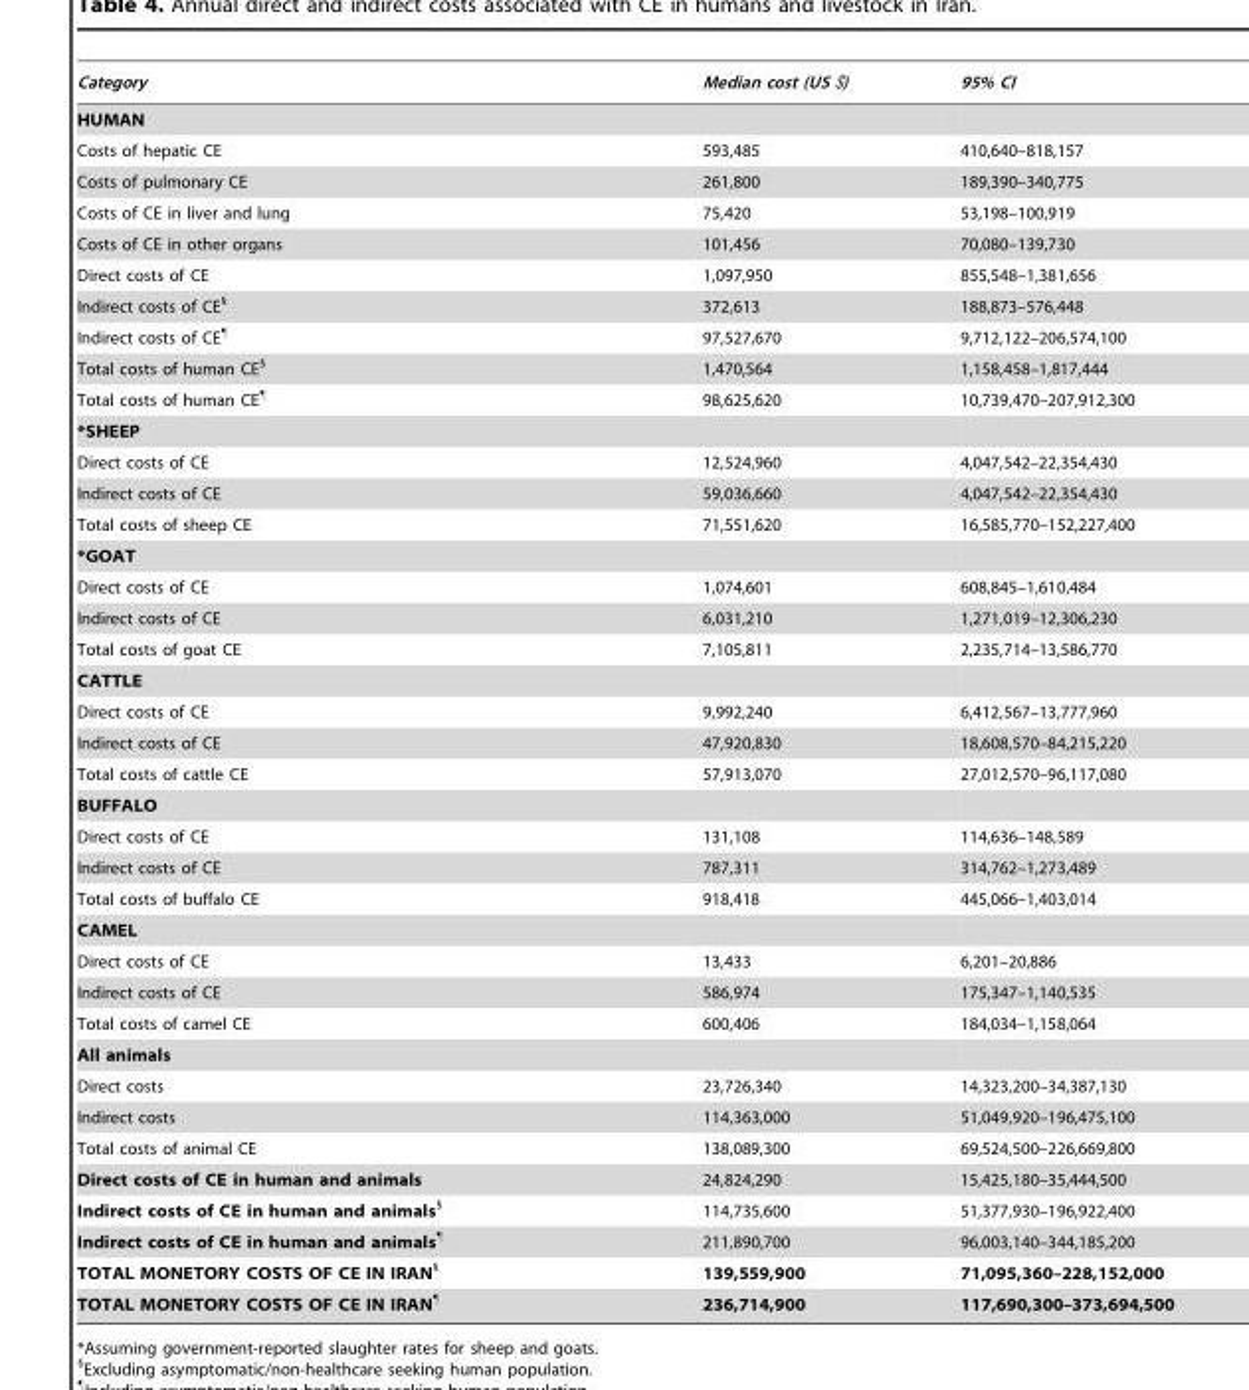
<table><thead><tr><td>Category</td><td>Median cost (US $)</td><td>95% CI</td></tr></thead><tbody><tr><td colspan="3">HUMAN</td></tr><tr><td>Costs of hepatic CE</td><td>593,485</td><td>410,640–818,157</td></tr><tr><td>Costs of pulmonary CE</td><td>261,800</td><td>189,390–340,775</td></tr><tr><td>Costs of CE in liver and lung</td><td>75,420</td><td>53,198–100,919</td></tr><tr><td>Costs of CE in other organs</td><td>101,456</td><td>70,080–139,730</td></tr><tr><td>Direct costs of CE</td><td>1,097,950</td><td>855,548–1,381,656</td></tr><tr><td>Indirect costs of CE§</td><td>372,613</td><td>188,873–576,448</td></tr><tr><td>Indirect costs of CE¶</td><td>97,527,670</td><td>9,712,122–206,574,100</td></tr><tr><td>Total costs of human CE§</td><td>1,470,564</td><td>1,158,458–1,817,444</td></tr><tr><td>Total costs of human CE¶</td><td>98,625,620</td><td>10,739,470–207,912,300</td></tr><tr><td colspan="3">*SHEEP</td></tr><tr><td>Direct costs of CE</td><td>12,524,960</td><td>4,047,542–22,354,430</td></tr><tr><td>Indirect costs of CE</td><td>59,036,660</td><td>4,047,542–22,354,430</td></tr><tr><td>Total costs of sheep CE</td><td>71,551,620</td><td>16,585,770–152,227,400</td></tr><tr><td colspan="3">*GOAT</td></tr><tr><td>Direct costs of CE</td><td>1,074,601</td><td>608,845–1,610,484</td></tr><tr><td>Indirect costs of CE</td><td>6,031,210</td><td>1,271,019–12,306,230</td></tr><tr><td>Total costs of goat CE</td><td>7,105,811</td><td>2,235,714–13,586,770</td></tr><tr><td colspan="3">CATTLE</td></tr><tr><td>Direct costs of CE</td><td>9,992,240</td><td>6,412,567–13,777,960</td></tr><tr><td>Indirect costs of CE</td><td>47,920,830</td><td>18,608,570–84,215,220</td></tr><tr><td>Total costs of cattle CE</td><td>57,913,070</td><td>27,012,570–96,117,080</td></tr><tr><td colspan="3">BUFFALO</td></tr><tr><td>Direct costs of CE</td><td>131,108</td><td>114,636–148,589</td></tr><tr><td>Indirect costs of CE</td><td>787,311</td><td>314,762–1,273,489</td></tr><tr><td>Total costs of buffalo CE</td><td>918,418</td><td>445,066–1,403,014</td></tr><tr><td colspan="3">CAMEL</td></tr><tr><td>Direct costs of CE</td><td>13,433</td><td>6,201–20,886</td></tr><tr><td>Indirect costs of CE</td><td>586,974</td><td>175,347–1,140,535</td></tr><tr><td>Total costs of camel CE</td><td>600,406</td><td>184,034–1,158,064</td></tr><tr><td colspan="3">All animals</td></tr><tr><td>Direct costs</td><td>23,726,340</td><td>14,323,200–34,387,130</td></tr><tr><td>Indirect costs</td><td>114,363,000</td><td>51,049,920–196,475,100</td></tr><tr><td>Total costs of animal CE</td><td>138,089,300</td><td>69,524,500–226,669,800</td></tr><tr><td>Direct costs of CE in human and animals</td><td>24,824,290</td><td>15,425,180–35,444,500</td></tr><tr><td>Indirect costs of CE in human and animals§</td><td>114,735,600</td><td>51,377,930–196,922,400</td></tr><tr><td>Indirect costs of CE in human and animals¶</td><td>211,890,700</td><td>96,003,140–344,185,200</td></tr><tr><td>TOTAL MONETORY COSTS OF CE IN IRAN§</td><td>139,559,900</td><td>71,095,360–228,152,000</td></tr><tr><td>TOTAL MONETORY COSTS OF CE IN IRAN¶</td><td>236,714,900</td><td>117,690,300–373,694,500</td></tr></tbody></table>